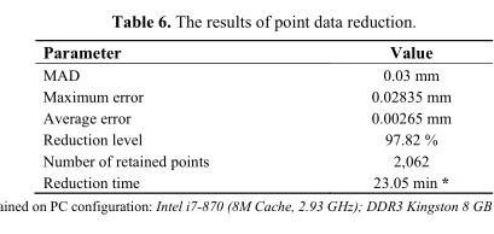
<table><thead><tr><td>Parameter</td><td>Value</td></tr></thead><tbody><tr><td>MAD</td><td>0.03 mm</td></tr><tr><td>Maximum error</td><td>0.02835 mm</td></tr><tr><td>Average error</td><td>0.00265 mm</td></tr><tr><td>Reduction level</td><td>97.82 %</td></tr><tr><td>Number of retained points</td><td>2,062</td></tr><tr><td>Reduction time</td><td>23.05 min *</td></tr></tbody></table>